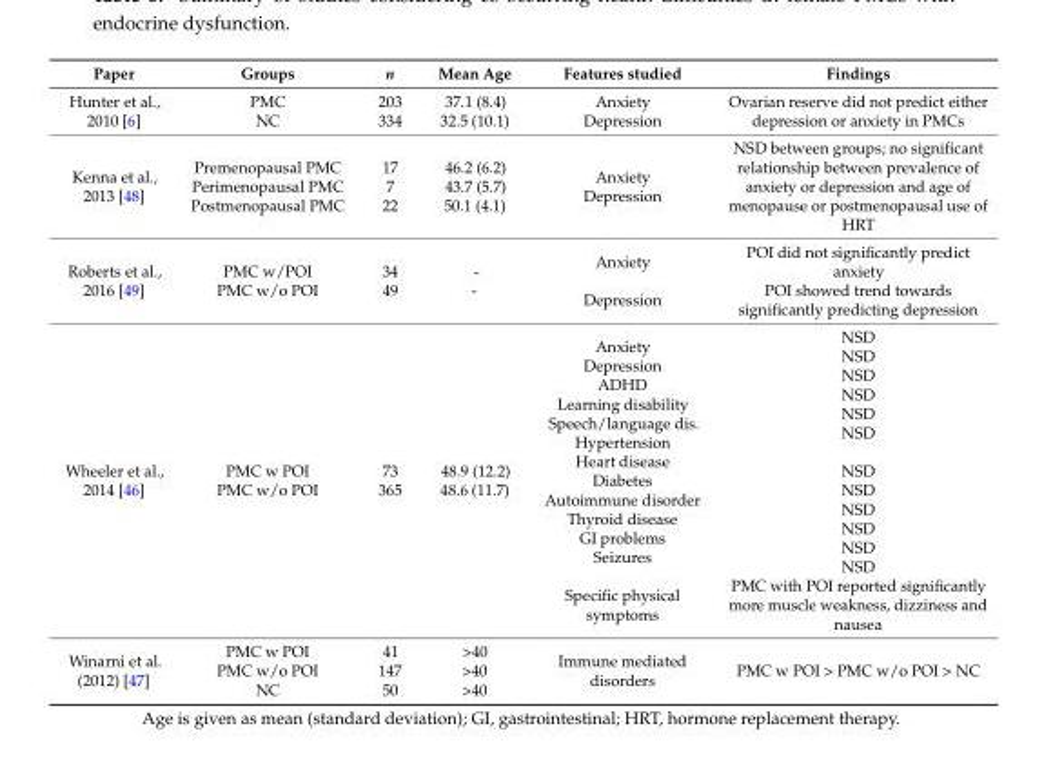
<table><thead><tr><td>Paper</td><td>Groups</td><td>n</td><td>Mean Age</td><td>Features studied</td><td>Findings</td></tr></thead><tbody><tr><td>Hunter et al., 2010 [6]</td><td>PMC NC</td><td>203 334</td><td>37.1 (8.4) 32.5 (10.1)</td><td>Anxiety Depression</td><td>Ovarian reserve did not predict either depression or anxiety in PMCs</td></tr><tr><td>Kenna et al., 2013 [48]</td><td>Premenopausal PMC Perimenopausal PMC Postmenopausal PMC</td><td>17 7 22</td><td>46.2 (6.2) 43.7 (5.7) 50.1 (4.1)</td><td>Anxiety Depression</td><td>NSD between groups; no significant relationship between prevalence of anxiety or depression and age of menopause or postmenopausal use of HRT</td></tr><tr><td>Roberts et al., 2016 [49]</td><td>PMC w/POI PMC w/o POI</td><td>34 49</td><td>- -</td><td>Anxiety Depression</td><td>POI did not significantly predict anxiety POI showed trend towards significantly predicting depression</td></tr><tr><td>Wheeler et al., 2014 [46]</td><td>PMC w POI PMC w/o POI</td><td>73 365</td><td>48.9 (12.2) 48.6 (11.7)</td><td>Anxiety Depression ADHD Learning disability Speech/language dis. Hypertension Heart disease Diabetes Autoimmune disorder Thyroid disease GI problems Seizures Specific physical symptoms</td><td>NSD NSD NSD NSD NSD NSD NSD NSD NSD NSD NSD NSD PMC with POI reported significantly more muscle weakness, dizziness and nausea</td></tr><tr><td>Winarni et al. (2012) [47]</td><td>PMC w POI PMC w/o POI NC</td><td>41 147 50</td><td>&gt;40 &gt;40 &gt;40</td><td>Immune mediated disorders</td><td>PMC w POI &gt; PMC w/o POI &gt; NC</td></tr></tbody></table>